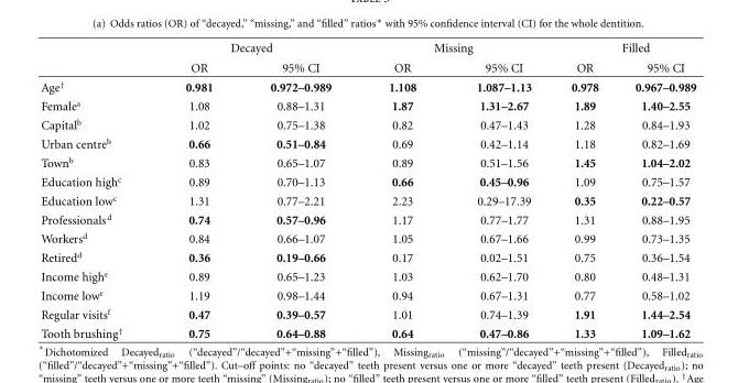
<table><thead><tr><td rowspan="2"></td><td colspan="2">Decayed</td><td colspan="2">Missing</td><td colspan="2">Filled</td></tr><tr><td>OR</td><td>95% CI</td><td>OR</td><td>95% CI</td><td>OR</td><td>95% CI</td></tr></thead><tbody><tr><td>Age<sup>†</sup></td><td>0.981</td><td>0.972–0.989</td><td>1.108</td><td>1.087–1.13</td><td>0.978</td><td>0.967–0.989</td></tr><tr><td>Female<sup>a</sup></td><td>1.08</td><td>0.88–1.31</td><td>1.87</td><td>1.31–2.67</td><td>1.89</td><td>1.40–2.55</td></tr><tr><td>Capital<sup>b</sup></td><td>1.02</td><td>0.75–1.38</td><td>0.82</td><td>0.47–1.43</td><td>1.28</td><td>0.84–1.93</td></tr><tr><td>Urban centre<sup>b</sup></td><td>0.66</td><td>0.51–0.84</td><td>0.69</td><td>0.42–1.14</td><td>1.18</td><td>0.82–1.69</td></tr><tr><td>Town<sup>b</sup></td><td>0.83</td><td>0.65–1.07</td><td>0.89</td><td>0.51–1.56</td><td>1.45</td><td>1.04–2.02</td></tr><tr><td>Education high<sup>c</sup></td><td>0.89</td><td>0.70–1.13</td><td>0.66</td><td>0.45–0.96</td><td>1.09</td><td>0.75–1.57</td></tr><tr><td>Education low<sup>c</sup></td><td>1.31</td><td>0.77–2.21</td><td>2.23</td><td>0.29–17.39</td><td>0.35</td><td>0.22–0.57</td></tr><tr><td>Professionals<sup>d</sup></td><td>0.74</td><td>0.57–0.96</td><td>1.17</td><td>0.77–1.77</td><td>1.31</td><td>0.88–1.95</td></tr><tr><td>Workers<sup>d</sup></td><td>0.84</td><td>0.66–1.07</td><td>1.05</td><td>0.67–1.66</td><td>0.99</td><td>0.73–1.35</td></tr><tr><td>Retired<sup>d</sup></td><td>0.36</td><td>0.19–0.66</td><td>0.17</td><td>0.02–1.51</td><td>0.75</td><td>0.36–1.54</td></tr><tr><td>Income high<sup>e</sup></td><td>0.89</td><td>0.65–1.23</td><td>1.03</td><td>0.62–1.70</td><td>0.80</td><td>0.48–1.31</td></tr><tr><td>Income low<sup>e</sup></td><td>1.19</td><td>0.98–1.44</td><td>0.94</td><td>0.67–1.31</td><td>0.77</td><td>0.58–1.02</td></tr><tr><td>Regular visits<sup>f</sup></td><td>0.47</td><td>0.39–0.57</td><td>1.01</td><td>0.74–1.39</td><td>1.91</td><td>1.44–2.54</td></tr><tr><td>Tooth brushing<sup>†</sup></td><td>0.75</td><td>0.64–0.88</td><td>0.64</td><td>0.47–0.86</td><td>1.33</td><td>1.09–1.62</td></tr></tbody></table>